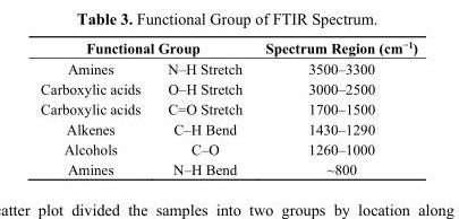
<table><thead><tr><td colspan="2">Functional Group</td><td rowspan="2">Spectrum Region (cm<sup>−1</sup>) 3500–3300</td></tr><tr><td>Amines</td><td>N–H Stretch</td></tr></thead><tbody><tr><td>Carboxylic acids</td><td>O–H Stretch</td><td>3000–2500</td></tr><tr><td>Carboxylic acids</td><td>C=O Stretch</td><td>1700–1500</td></tr><tr><td>Alkenes</td><td>C–H Bend</td><td>1430–1290</td></tr><tr><td>Alcohols</td><td>C–O</td><td>1260–1000</td></tr><tr><td>Amines</td><td>N–H Bend</td><td>~800</td></tr></tbody></table>